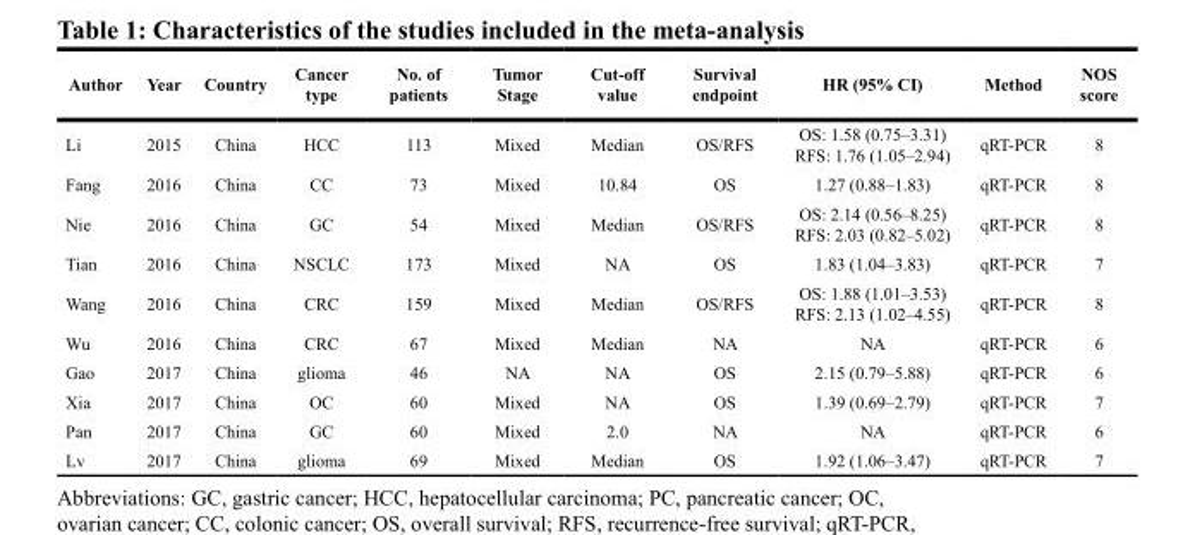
<table><thead><tr><td>Author</td><td>Year</td><td>Country</td><td>Cancer type</td><td>No. of patients</td><td>Tumor Stage</td><td>Cut-off value</td><td>Survival endpoint</td><td>HR (95% CI)</td><td>Method</td><td>NOS score</td></tr></thead><tbody><tr><td>Li</td><td>2015</td><td>China</td><td>HCC</td><td>113</td><td>Mixed</td><td>Median</td><td>OS/RFS</td><td>OS: 1.58 (0.75–3.31) RFS: 1.76 (1.05–2.94)</td><td>qRT-PCR</td><td>8</td></tr><tr><td>Fang</td><td>2016</td><td>China</td><td>CC</td><td>73</td><td>Mixed</td><td>10.84</td><td>OS</td><td>1.27 (0.88–1.83)</td><td>qRT-PCR</td><td>8</td></tr><tr><td>Nie</td><td>2016</td><td>China</td><td>GC</td><td>54</td><td>Mixed</td><td>Median</td><td>OS/RFS</td><td>OS: 2.14 (0.56–8.25) RFS: 2.03 (0.82–5.02)</td><td>qRT-PCR</td><td>8</td></tr><tr><td>Tian</td><td>2016</td><td>China</td><td>NSCLC</td><td>173</td><td>Mixed</td><td>NA</td><td>OS</td><td>1.83 (1.04–3.83)</td><td>qRT-PCR</td><td>7</td></tr><tr><td>Wang</td><td>2016</td><td>China</td><td>CRC</td><td>159</td><td>Mixed</td><td>Median</td><td>OS/RFS</td><td>OS: 1.88 (1.01–3.53) RFS: 2.13 (1.02–4.55)</td><td>qRT-PCR</td><td>8</td></tr><tr><td>Wu</td><td>2016</td><td>China</td><td>CRC</td><td>67</td><td>Mixed</td><td>Median</td><td>NA</td><td>NA</td><td>qRT-PCR</td><td>6</td></tr><tr><td>Gao</td><td>2017</td><td>China</td><td>glioma</td><td>46</td><td>NA</td><td>NA</td><td>OS</td><td>2.15 (0.79–5.88)</td><td>qRT-PCR</td><td>6</td></tr><tr><td>Xia</td><td>2017</td><td>China</td><td>OC</td><td>60</td><td>Mixed</td><td>NA</td><td>OS</td><td>1.39 (0.69–2.79)</td><td>qRT-PCR</td><td>7</td></tr><tr><td>Pan</td><td>2017</td><td>China</td><td>GC</td><td>60</td><td>Mixed</td><td>2.0</td><td>NA</td><td>NA</td><td>qRT-PCR</td><td>6</td></tr><tr><td>Lv</td><td>2017</td><td>China</td><td>glioma</td><td>69</td><td>Mixed</td><td>Median</td><td>OS</td><td>1.92 (1.06–3.47)</td><td>qRT-PCR</td><td>7</td></tr></tbody></table>